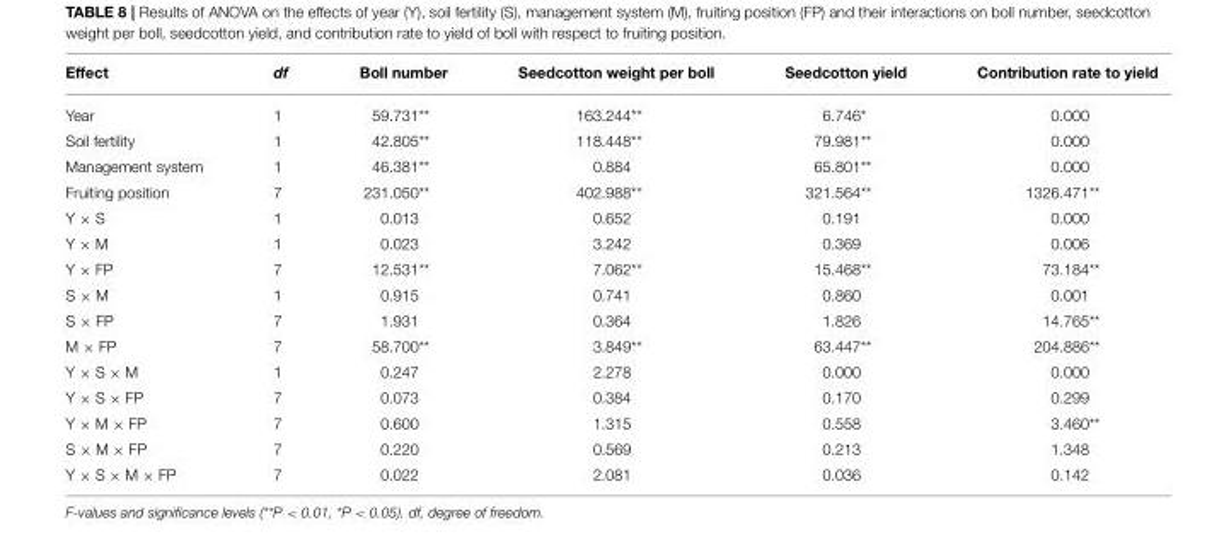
<table><thead><tr><td>Effect</td><td>df</td><td>Boll number</td><td>Seedcotton weight per boll</td><td>Seedcotton yield</td><td>Contribution rate to yield</td></tr></thead><tbody><tr><td>Year</td><td>1</td><td>59.731**</td><td>163.244**</td><td>6.746*</td><td>0.000</td></tr><tr><td>Soil fertility</td><td>1</td><td>42.805**</td><td>118.448**</td><td>79.981**</td><td>0.000</td></tr><tr><td>Management system</td><td>1</td><td>46.381**</td><td>0.884</td><td>65.801**</td><td>0.000</td></tr><tr><td>Fruiting position</td><td>7</td><td>231.050**</td><td>402.988**</td><td>321.564**</td><td>1326.471**</td></tr><tr><td>Y × S</td><td>1</td><td>0.013</td><td>0.652</td><td>0.191</td><td>0.000</td></tr><tr><td>Y × M</td><td>1</td><td>0.023</td><td>3.242</td><td>0.369</td><td>0.006</td></tr><tr><td>Y × FP</td><td>7</td><td>12.531**</td><td>7.062**</td><td>15.468**</td><td>73.184**</td></tr><tr><td>S × M</td><td>1</td><td>0.915</td><td>0.741</td><td>0.860</td><td>0.001</td></tr><tr><td>S × FP</td><td>7</td><td>1.931</td><td>0.364</td><td>1.826</td><td>14.765**</td></tr><tr><td>M × FP</td><td>7</td><td>58.700**</td><td>3.849**</td><td>63.447**</td><td>204.886**</td></tr><tr><td>Y × S × M</td><td>1</td><td>0.247</td><td>2.278</td><td>0.000</td><td>0.000</td></tr><tr><td>Y × S × FP</td><td>7</td><td>0.073</td><td>0.384</td><td>0.170</td><td>0.299</td></tr><tr><td>Y × M × FP</td><td>7</td><td>0.600</td><td>1.315</td><td>0.558</td><td>3.460**</td></tr><tr><td>S × M × FP</td><td>7</td><td>0.220</td><td>0.569</td><td>0.213</td><td>1.348</td></tr><tr><td>Y × S × M × FP</td><td>7</td><td>0.022</td><td>2.081</td><td>0.036</td><td>0.142</td></tr></tbody></table>